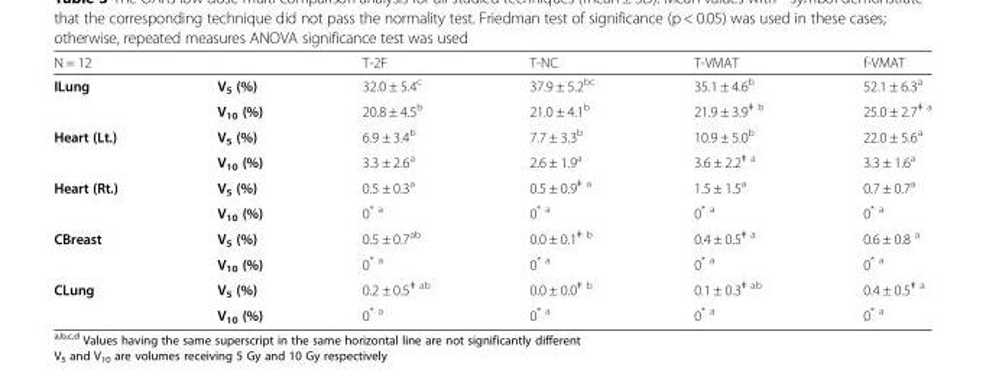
<table><thead><tr><td>N = 12</td><td></td><td>T-2F</td><td>T-NC</td><td>T-VMAT</td><td>f-VMAT</td></tr></thead><tbody><tr><td rowspan="2">ILung</td><td>V<sub>5</sub> (%)</td><td>32.0 ± 5.4<sup>c</sup></td><td>37.9 ± 5.2<sup>bc</sup></td><td>35.1 ± 4.6<sup>b</sup></td><td>52.1 ± 6.3<sup>a</sup></td></tr><tr><td>V<sub>10</sub> (%)</td><td>20.8 ± 4.5<sup>b</sup></td><td>21.0 ± 4.1<sup>b</sup></td><td>21.9 ± 3.9<sup>ǂ b</sup></td><td>25.0 ± 2.7<sup>ǂ a</sup></td></tr><tr><td rowspan="2">Heart (Lt.)</td><td>V<sub>5</sub> (%)</td><td>6.9 ± 3.4<sup>b</sup></td><td>7.7 ± 3.3<sup>b</sup></td><td>10.9 ± 5.0<sup>b</sup></td><td>22.0 ± 5.6<sup>a</sup></td></tr><tr><td>V<sub>10</sub> (%)</td><td>3.3 ± 2.6<sup>a</sup></td><td>2.6 ± 1.9<sup>a</sup></td><td>3.6 ± 2.2<sup>ǂ a</sup></td><td>3.3 ± 1.6<sup>a</sup></td></tr><tr><td rowspan="2">Heart (Rt.)</td><td>V<sub>5</sub> (%)</td><td>0.5 ± 0.3<sup>a</sup></td><td>0.5 ± 0.9<sup>ǂ a</sup></td><td>1.5 ± 1.5<sup>a</sup></td><td>0.7 ± 0.7<sup>a</sup></td></tr><tr><td>V<sub>10</sub> (%)</td><td>0<sup>* a</sup></td><td>0<sup>* a</sup></td><td>0<sup>* a</sup></td><td>0<sup>* a</sup></td></tr><tr><td rowspan="2">CBreast</td><td>V<sub>5</sub> (%)</td><td>0.5 ± 0.7<sup>ab</sup></td><td>0.0 ± 0.1<sup>ǂ b</sup></td><td>0.4 ± 0.5<sup>ǂ a</sup></td><td>0.6 ± 0.8 <sup>a</sup></td></tr><tr><td>V<sub>10</sub> (%)</td><td>0<sup>* a</sup></td><td>0<sup>* a</sup></td><td>0<sup>* a</sup></td><td>0<sup>* a</sup></td></tr><tr><td rowspan="2">CLung</td><td>V<sub>5</sub> (%)</td><td>0.2 ± 0.5<sup>ǂ ab</sup></td><td>0.0 ± 0.0<sup>ǂ b</sup></td><td>0.1 ± 0.3<sup>ǂ ab</sup></td><td>0.4 ± 0.5<sup>ǂ a</sup></td></tr><tr><td>V<sub>10</sub> (%)</td><td>0<sup>* a</sup></td><td>0<sup>* a</sup></td><td>0<sup>* a</sup></td><td>0<sup>* a</sup></td></tr></tbody></table>